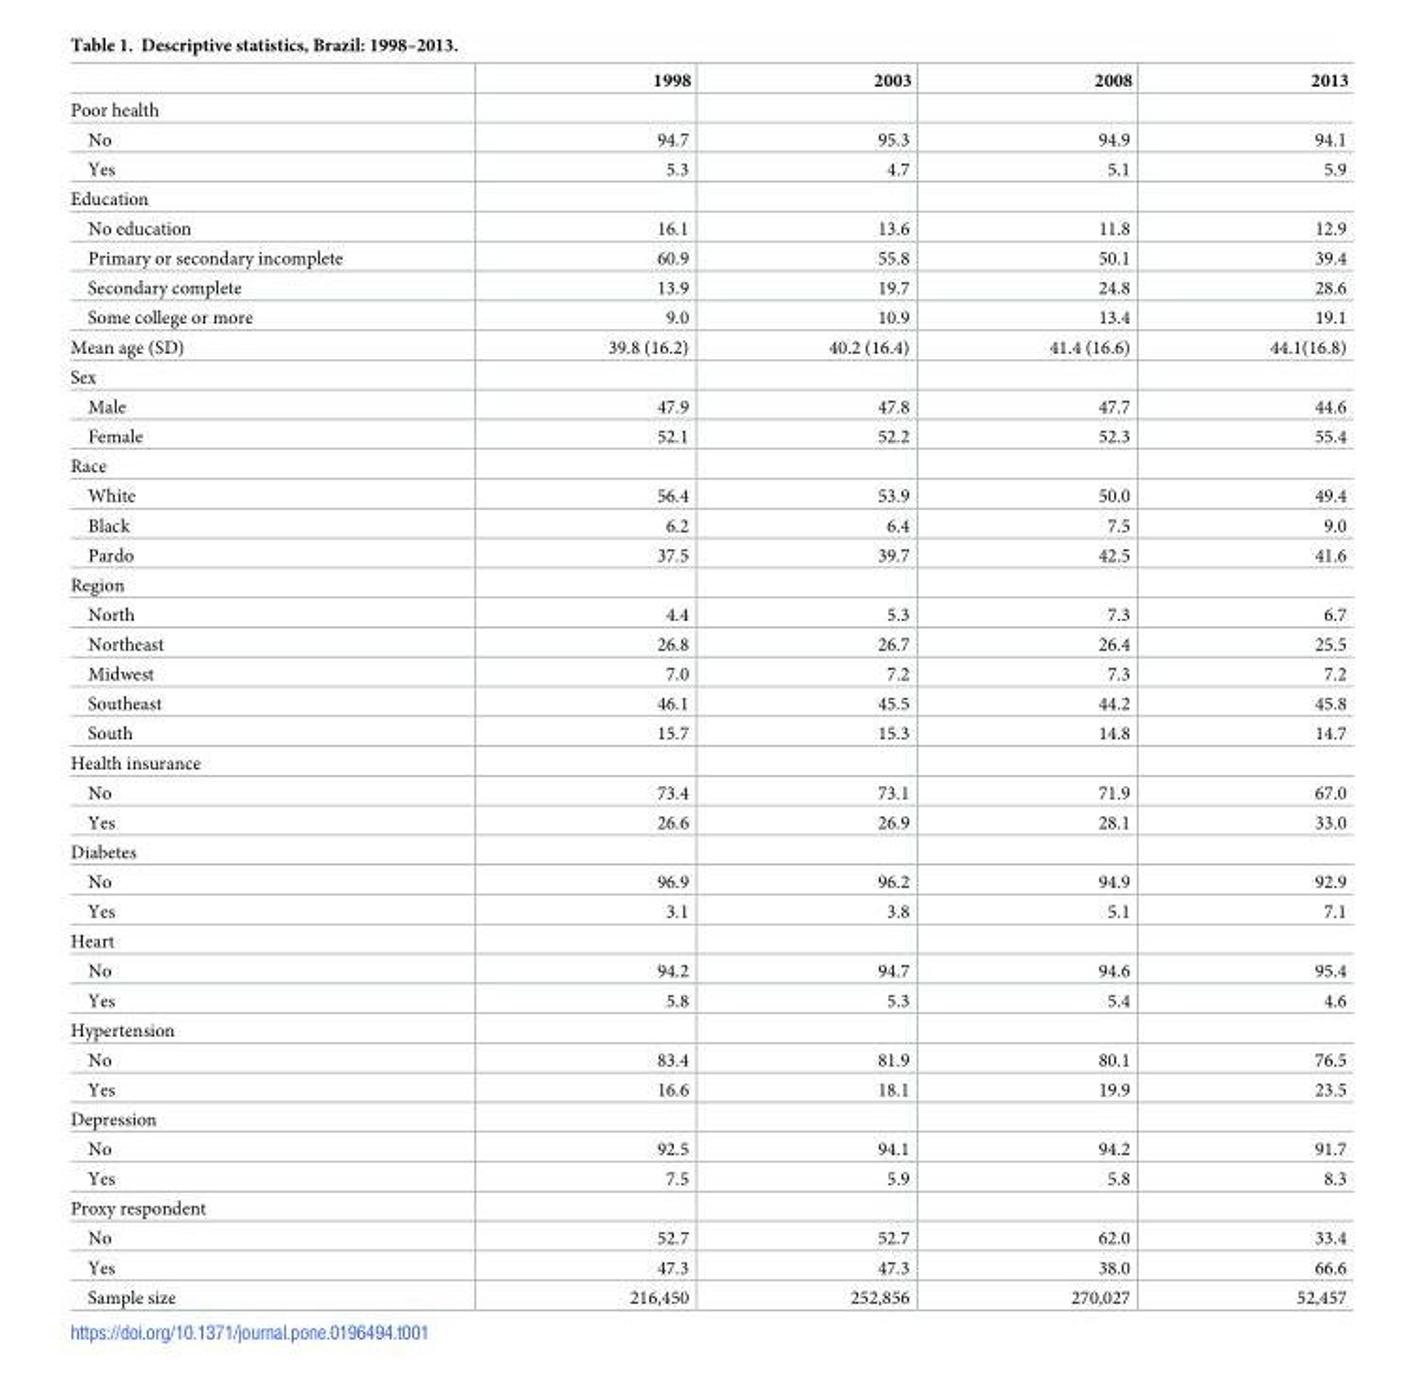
<table><thead><tr><td></td><td>1998</td><td>2003</td><td>2008</td><td>2013</td></tr></thead><tbody><tr><td colspan="5">Poor health</td></tr><tr><td>No</td><td>94.7</td><td>95.3</td><td>94.9</td><td>94.1</td></tr><tr><td>Yes</td><td>5.3</td><td>4.7</td><td>5.1</td><td>5.9</td></tr><tr><td colspan="5">Education</td></tr><tr><td>No education</td><td>16.1</td><td>13.6</td><td>11.8</td><td>12.9</td></tr><tr><td>Primary or secondary incomplete</td><td>60.9</td><td>55.8</td><td>50.1</td><td>39.4</td></tr><tr><td>Secondary complete</td><td>13.9</td><td>19.7</td><td>24.8</td><td>28.6</td></tr><tr><td>Some college or more</td><td>9.0</td><td>10.9</td><td>13.4</td><td>19.1</td></tr><tr><td>Mean age (SD)</td><td>39.8 (16.2)</td><td>40.2 (16.4)</td><td>41.4 (16.6)</td><td>44.1(16.8)</td></tr><tr><td colspan="5">Sex</td></tr><tr><td>Male</td><td>47.9</td><td>47.8</td><td>47.7</td><td>44.6</td></tr><tr><td>Female</td><td>52.1</td><td>52.2</td><td>52.3</td><td>55.4</td></tr><tr><td colspan="5">Race</td></tr><tr><td>White</td><td>56.4</td><td>53.9</td><td>50.0</td><td>49.4</td></tr><tr><td>Black</td><td>6.2</td><td>6.4</td><td>7.5</td><td>9.0</td></tr><tr><td>Pardo</td><td>37.5</td><td>39.7</td><td>42.5</td><td>41.6</td></tr><tr><td colspan="5">Region</td></tr><tr><td>North</td><td>4.4</td><td>5.3</td><td>7.3</td><td>6.7</td></tr><tr><td>Northeast</td><td>26.8</td><td>26.7</td><td>26.4</td><td>25.5</td></tr><tr><td>Midwest</td><td>7.0</td><td>7.2</td><td>7.3</td><td>7.2</td></tr><tr><td>Southeast</td><td>46.1</td><td>45.5</td><td>44.2</td><td>45.8</td></tr><tr><td>South</td><td>15.7</td><td>15.3</td><td>14.8</td><td>14.7</td></tr><tr><td colspan="5">Health insurance</td></tr><tr><td>No</td><td>73.4</td><td>73.1</td><td>71.9</td><td>67.0</td></tr><tr><td>Yes</td><td>26.6</td><td>26.9</td><td>28.1</td><td>33.0</td></tr><tr><td colspan="5">Diabetes</td></tr><tr><td>No</td><td>96.9</td><td>96.2</td><td>94.9</td><td>92.9</td></tr><tr><td>Yes</td><td>3.1</td><td>3.8</td><td>5.1</td><td>7.1</td></tr><tr><td colspan="5">Heart</td></tr><tr><td>No</td><td>94.2</td><td>94.7</td><td>94.6</td><td>95.4</td></tr><tr><td>Yes</td><td>5.8</td><td>5.3</td><td>5.4</td><td>4.6</td></tr><tr><td colspan="5">Hypertension</td></tr><tr><td>No</td><td>83.4</td><td>81.9</td><td>80.1</td><td>76.5</td></tr><tr><td>Yes</td><td>16.6</td><td>18.1</td><td>19.9</td><td>23.5</td></tr><tr><td colspan="5">Depression</td></tr><tr><td>No</td><td>92.5</td><td>94.1</td><td>94.2</td><td>91.7</td></tr><tr><td>Yes</td><td>7.5</td><td>5.9</td><td>5.8</td><td>8.3</td></tr><tr><td colspan="5">Proxy respondent</td></tr><tr><td>No</td><td>52.7</td><td>52.7</td><td>62.0</td><td>33.4</td></tr><tr><td>Yes</td><td>47.3</td><td>47.3</td><td>38.0</td><td>66.6</td></tr><tr><td>Sample size</td><td>216,450</td><td>252,856</td><td>270,027</td><td>52,457</td></tr></tbody></table>